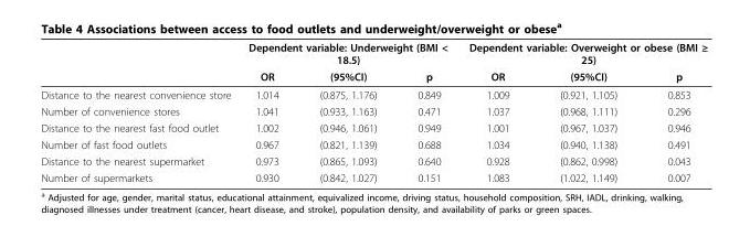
<table><thead><tr><td rowspan="2"></td><td colspan="3">Dependent variable: Underweight (BMI &lt; 18.5)</td><td colspan="3">Dependent variable: Overweight or obese (BMI ≥ 25)</td></tr><tr><td>OR</td><td>(95%CI)</td><td>p</td><td>OR</td><td>(95%CI)</td><td>p</td></tr></thead><tbody><tr><td>Distance to the nearest convenience store</td><td>1.014</td><td>(0.875, 1.176)</td><td>0.849</td><td>1.009</td><td>(0.921, 1.105)</td><td>0.853</td></tr><tr><td>Number of convenience stores</td><td>1.041</td><td>(0.933, 1.163)</td><td>0.471</td><td>1.037</td><td>(0.968, 1.111)</td><td>0.296</td></tr><tr><td>Distance to the nearest fast food outlet</td><td>1.002</td><td>(0.946, 1.061)</td><td>0.949</td><td>1.001</td><td>(0.967, 1.037)</td><td>0.946</td></tr><tr><td>Number of fast food outlets</td><td>0.967</td><td>(0.821, 1.139)</td><td>0.688</td><td>1.034</td><td>(0.940, 1.138)</td><td>0.491</td></tr><tr><td>Distance to the nearest supermarket</td><td>0.973</td><td>(0.865, 1.093)</td><td>0.640</td><td>0.928</td><td>(0.862, 0.998)</td><td>0.043</td></tr><tr><td>Number of supermarkets</td><td>0.930</td><td>(0.842, 1.027)</td><td>0.151</td><td>1.083</td><td>(1.022, 1.149)</td><td>0.007</td></tr></tbody></table>